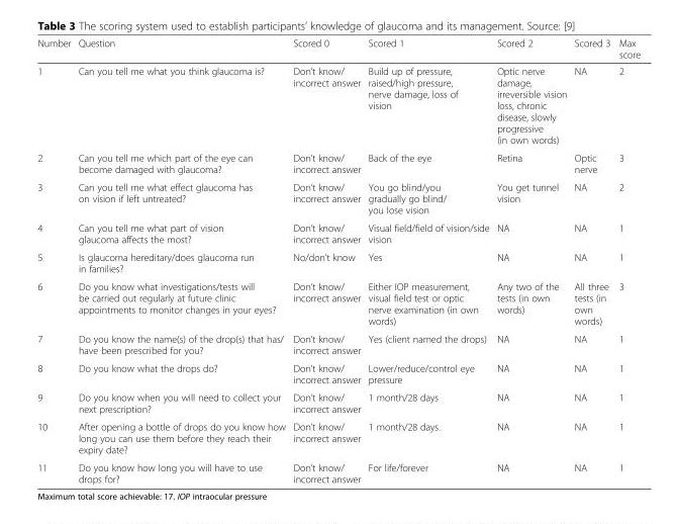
<table><thead><tr><td>Number</td><td>Question</td><td>Scored 0</td><td>Scored 1</td><td>Scored 2</td><td>Scored 3</td><td>Max score</td></tr></thead><tbody><tr><td>1</td><td>Can you tell me what you think glaucoma is?</td><td>Don’t know/ incorrect answer</td><td>Build up of pressure, raised/high pressure, nerve damage, loss of vision</td><td>Optic nerve damage, irreversible vision loss, chronic disease, slowly progressive (in own words)</td><td>NA</td><td>2</td></tr><tr><td>2</td><td>Can you tell me which part of the eye can become damaged with glaucoma?</td><td>Don’t know/ incorrect answer</td><td>Back of the eye</td><td>Retina</td><td>Optic nerve</td><td>3</td></tr><tr><td>3</td><td>Can you tell me what effect glaucoma has on vision if left untreated?</td><td>Don’t know/ incorrect answer</td><td>You go blind/you gradually go blind/ you lose vision</td><td>You get tunnel vision</td><td>NA</td><td>2</td></tr><tr><td>4</td><td>Can you tell me what part of vision glaucoma affects the most?</td><td>Don’t know/ incorrect answer</td><td>Visual field/field of vision/side vision</td><td>NA</td><td>NA</td><td>1</td></tr><tr><td>5</td><td>Is glaucoma hereditary/does glaucoma run in families?</td><td>No/don’t know</td><td>Yes</td><td>NA</td><td>NA</td><td>1</td></tr><tr><td>6</td><td>Do you know what investigations/tests will be carried out regularly at future clinic appointments to monitor changes in your eyes?</td><td>Don’t know/ incorrect answer</td><td>Either IOP measurement, visual field test or optic nerve examination (in own words)</td><td>Any two of the tests (in own words)</td><td>All three tests (in own words)</td><td>3</td></tr><tr><td>7</td><td>Do you know the name(s) of the drop(s) that has/ have been prescribed for you?</td><td>Don’t know/ incorrect answer</td><td>Yes (client named the drops)</td><td>NA</td><td>NA</td><td>1</td></tr><tr><td>8</td><td>Do you know what the drops do?</td><td>Don’t know/ incorrect answer</td><td>Lower/reduce/control eye pressure</td><td>NA</td><td>NA</td><td>1</td></tr><tr><td>9</td><td>Do you know when you will need to collect your next prescription?</td><td>Don’t know/ incorrect answer</td><td>1 month/28 days</td><td>NA</td><td>NA</td><td>1</td></tr><tr><td>10</td><td>After opening a bottle of drops do you know how long you can use them before they reach their expiry date?</td><td>Don’t know/ incorrect answer</td><td>1 month/28 days</td><td>NA</td><td>NA</td><td>1</td></tr><tr><td>11</td><td>Do you know how long you will have to use drops for?</td><td>Don’t know/ incorrect answer</td><td>For life/forever</td><td>NA</td><td>NA</td><td>1</td></tr></tbody></table>